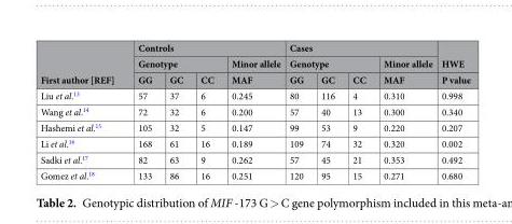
<table><thead><tr><td rowspan="3">First author [REF]</td><td colspan="4">Controls</td><td colspan="4">Cases</td><td rowspan="3">HWE P value</td></tr><tr><td colspan="3">Genotype</td><td rowspan="2">Minor allele MAF</td><td colspan="3">Genotype</td><td rowspan="2">Minor allele MAF</td></tr><tr><td>GG</td><td>GC</td><td>CC</td><td>GG</td><td>GC</td><td>CC</td></tr></thead><tbody><tr><td>Liu et al.<sup>13</sup></td><td>57</td><td>37</td><td>6</td><td>0.245</td><td>80</td><td>116</td><td>4</td><td>0.310</td><td>0.998</td></tr><tr><td>Wang et al.<sup>14</sup></td><td>72</td><td>32</td><td>6</td><td>0.200</td><td>57</td><td>40</td><td>13</td><td>0.300</td><td>0.340</td></tr><tr><td>Hashemi et al.<sup>15</sup></td><td>105</td><td>32</td><td>5</td><td>0.147</td><td>99</td><td>53</td><td>9</td><td>0.220</td><td>0.207</td></tr><tr><td>Li et al.<sup>16</sup></td><td>168</td><td>61</td><td>16</td><td>0.189</td><td>109</td><td>74</td><td>32</td><td>0.320</td><td>0.002</td></tr><tr><td>Sadki et al.<sup>17</sup></td><td>82</td><td>63</td><td>9</td><td>0.262</td><td>57</td><td>45</td><td>21</td><td>0.353</td><td>0.492</td></tr><tr><td>Gomez et al.<sup>18</sup></td><td>133</td><td>86</td><td>16</td><td>0.251</td><td>120</td><td>95</td><td>15</td><td>0.271</td><td>0.680</td></tr></tbody></table>